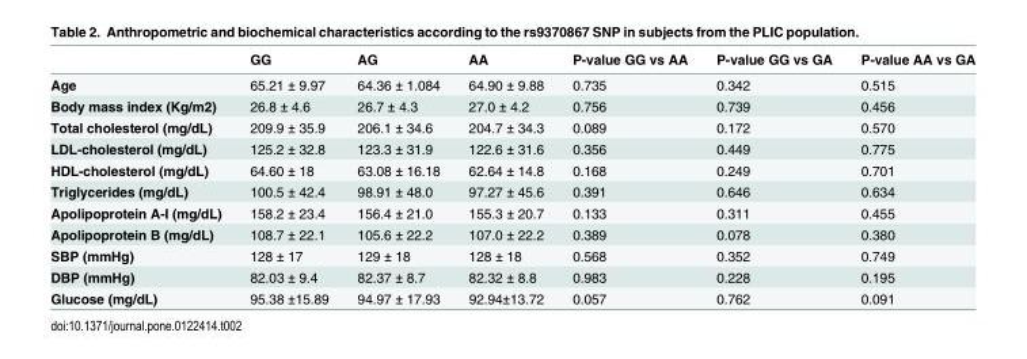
<table><thead><tr><td></td><td>GG</td><td>AG</td><td>AA</td><td>P-value GG vs AA</td><td>P-value GG vs GA</td><td>P-value AA vs GA</td></tr></thead><tbody><tr><td>Age</td><td>65.21 ± 9.97</td><td>64.36 ± 1.084</td><td>64.90 ± 9.88</td><td>0.735</td><td>0.342</td><td>0.515</td></tr><tr><td>Body mass index (Kg/m2)</td><td>26.8 ± 4.6</td><td>26.7 ± 4.3</td><td>27.0 ± 4.2</td><td>0.756</td><td>0.739</td><td>0.456</td></tr><tr><td>Total cholesterol (mg/dL)</td><td>209.9 ± 35.9</td><td>206.1 ± 34.6</td><td>204.7 ± 34.3</td><td>0.089</td><td>0.172</td><td>0.570</td></tr><tr><td>LDL-cholesterol (mg/dL)</td><td>125.2 ± 32.8</td><td>123.3 ± 31.9</td><td>122.6 ± 31.6</td><td>0.356</td><td>0.449</td><td>0.775</td></tr><tr><td>HDL-cholesterol (mg/dL)</td><td>64.60 ± 18</td><td>63.08 ± 16.18</td><td>62.64 ± 14.8</td><td>0.168</td><td>0.249</td><td>0.701</td></tr><tr><td>Triglycerides (mg/dL)</td><td>100.5 ± 42.4</td><td>98.91 ± 48.0</td><td>97.27 ± 45.6</td><td>0.391</td><td>0.646</td><td>0.634</td></tr><tr><td>Apolipoprotein A-I (mg/dL)</td><td>158.2 ± 23.4</td><td>156.4 ± 21.0</td><td>155.3 ± 20.7</td><td>0.133</td><td>0.311</td><td>0.455</td></tr><tr><td>Apolipoprotein B (mg/dL)</td><td>108.7 ± 22.1</td><td>105.6 ± 22.2</td><td>107.0 ± 22.2</td><td>0.389</td><td>0.078</td><td>0.380</td></tr><tr><td>SBP (mmHg)</td><td>128 ± 17</td><td>129 ± 18</td><td>128 ± 18</td><td>0.568</td><td>0.352</td><td>0.749</td></tr><tr><td>DBP (mmHg)</td><td>82.03 ± 9.4</td><td>82.37 ± 8.7</td><td>82.32 ± 8.8</td><td>0.983</td><td>0.228</td><td>0.195</td></tr><tr><td>Glucose (mg/dL)</td><td>95.38 ±15.89</td><td>94.97 ± 17.93</td><td>92.94±13.72</td><td>0.057</td><td>0.762</td><td>0.091</td></tr></tbody></table>